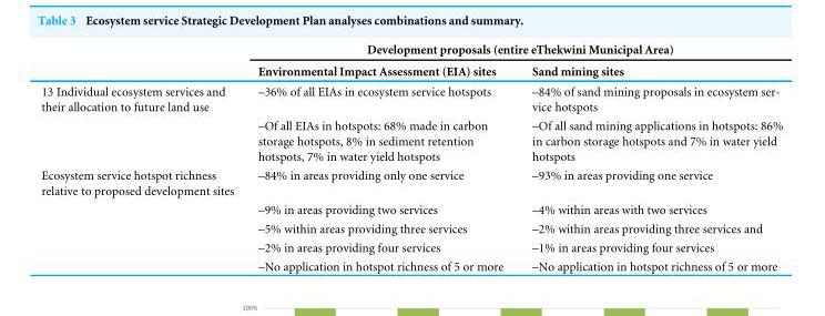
<table><thead><tr><td rowspan="2"></td><td colspan="2">Development proposals (entire eThekwini Municipal Area)</td></tr><tr><td>Environmental Impact Assessment (EIA) sites</td><td>Sand mining sites</td></tr></thead><tbody><tr><td rowspan="2">13 Individual ecosystem services and their allocation to future land use</td><td>–36% of all EIAs in ecosystem service hotspots</td><td>–84% of sand mining proposals in ecosystem ser- vice hotspots</td></tr><tr><td>–Of all EIAs in hotspots: 68% made in carbon storage hotspots, 8% in sediment retention hotspots, 7% in water yield hotspots</td><td>–Of all sand mining applications in hotspots: 86% in carbon storage hotspots and 7% in water yield hotspots</td></tr><tr><td rowspan="5">Ecosystem service hotspot richness relative to proposed development sites</td><td>–84% in areas providing only one service</td><td>–93% in areas providing one service</td></tr><tr><td>–9% in areas providing two services</td><td>–4% within areas with two services</td></tr><tr><td>–5% within areas providing three services</td><td>–2% within areas providing three services and</td></tr><tr><td>–2% in areas providing four services</td><td>–1% in areas providing four services</td></tr><tr><td>–No application in hotspot richness of 5 or more</td><td>–No application in hotspot richness of 5 or more</td></tr></tbody></table>